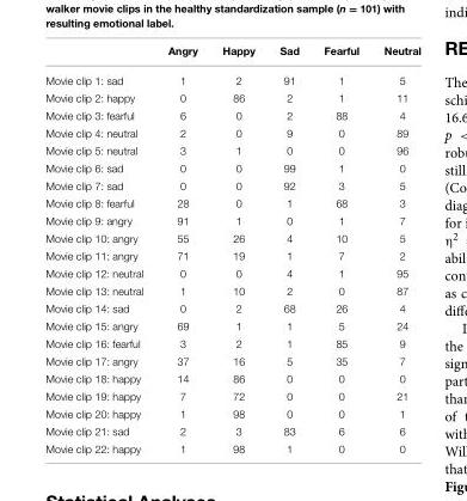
<table><thead><tr><td></td><td>Angry</td><td>Happy</td><td>Sad</td><td>Fearful</td><td>Neutral</td></tr></thead><tbody><tr><td>Movie clip 1: sad</td><td>1</td><td>2</td><td>91</td><td>1</td><td>5</td></tr><tr><td>Movie clip 2: happy</td><td>0</td><td>86</td><td>2</td><td>1</td><td>11</td></tr><tr><td>Movie clip 3: fearful</td><td>6</td><td>0</td><td>2</td><td>88</td><td>4</td></tr><tr><td>Movie clip 4: neutral</td><td>2</td><td>0</td><td>9</td><td>0</td><td>89</td></tr><tr><td>Movie clip 5: neutral</td><td>3</td><td>1</td><td>0</td><td>0</td><td>96</td></tr><tr><td>Movie clip 6: sad</td><td>0</td><td>0</td><td>99</td><td>1</td><td>0</td></tr><tr><td>Movie clip 7: sad</td><td>0</td><td>0</td><td>92</td><td>3</td><td>5</td></tr><tr><td>Movie clip 8: fearful</td><td>28</td><td>0</td><td>1</td><td>68</td><td>3</td></tr><tr><td>Movie clip 9: angry</td><td>91</td><td>1</td><td>0</td><td>1</td><td>7</td></tr><tr><td>Movie clip 10: angry</td><td>55</td><td>26</td><td>4</td><td>10</td><td>5</td></tr><tr><td>Movie clip 11: angry</td><td>71</td><td>19</td><td>1</td><td>7</td><td>2</td></tr><tr><td>Movie clip 12: neutral</td><td>0</td><td>0</td><td>4</td><td>1</td><td>95</td></tr><tr><td>Movie clip 13: neutral</td><td>1</td><td>10</td><td>2</td><td>0</td><td>87</td></tr><tr><td>Movie clip 14: sad</td><td>0</td><td>2</td><td>68</td><td>26</td><td>4</td></tr><tr><td>Movie clip 15: angry</td><td>69</td><td>1</td><td>1</td><td>5</td><td>24</td></tr><tr><td>Movie clip 16: fearful</td><td>3</td><td>2</td><td>1</td><td>85</td><td>9</td></tr><tr><td>Movie clip 17: angry</td><td>37</td><td>16</td><td>5</td><td>35</td><td>7</td></tr><tr><td>Movie clip 18: happy</td><td>14</td><td>86</td><td>0</td><td>0</td><td>0</td></tr><tr><td>Movie clip 19: happy</td><td>7</td><td>72</td><td>0</td><td>0</td><td>21</td></tr><tr><td>Movie clip 20: happy</td><td>1</td><td>98</td><td>0</td><td>0</td><td>1</td></tr><tr><td>Movie clip 21: sad</td><td>2</td><td>3</td><td>83</td><td>6</td><td>6</td></tr><tr><td>Movie clip 22: happy</td><td>1</td><td>98</td><td>1</td><td>0</td><td>0</td></tr></tbody></table>